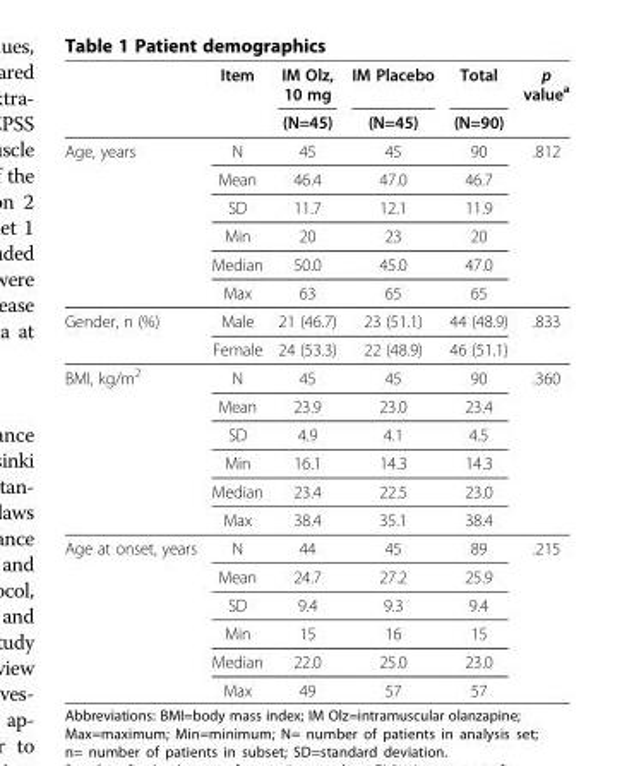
<table><thead><tr><td rowspan="2"></td><td rowspan="2">Item</td><td rowspan="2">IM Olz, 10 mg (N=45)</td><td rowspan="2">IM Placebo (N=45)</td><td rowspan="2">Total (N=90)</td><td rowspan="2">p value<sup>a</sup></td></tr><tr></tr></thead><tbody><tr><td rowspan="6">Age, years</td><td>N</td><td>45</td><td>45</td><td>90</td><td rowspan="6">.812</td></tr><tr><td>Mean</td><td>46.4</td><td>47.0</td><td>46.7</td></tr><tr><td>SD</td><td>11.7</td><td>12.1</td><td>11.9</td></tr><tr><td>Min</td><td>20</td><td>23</td><td>20</td></tr><tr><td>Median</td><td>50.0</td><td>45.0</td><td>47.0</td></tr><tr><td>Max</td><td>63</td><td>65</td><td>65</td></tr><tr><td rowspan="2">Gender, n (%)</td><td>Male</td><td>21 (46.7)</td><td>23 (51.1)</td><td>44 (48.9)</td><td rowspan="2">.833</td></tr><tr><td>Female</td><td>24 (53.3)</td><td>22 (48.9)</td><td>46 (51.1)</td></tr><tr><td rowspan="6">BMI, kg/m<sup>2</sup></td><td>N</td><td>45</td><td>45</td><td>90</td><td rowspan="6">.360</td></tr><tr><td>Mean</td><td>23.9</td><td>23.0</td><td>23.4</td></tr><tr><td>SD</td><td>4.9</td><td>4.1</td><td>4.5</td></tr><tr><td>Min</td><td>16.1</td><td>14.3</td><td>14.3</td></tr><tr><td>Median</td><td>23.4</td><td>22.5</td><td>23.0</td></tr><tr><td>Max</td><td>38.4</td><td>35.1</td><td>38.4</td></tr><tr><td rowspan="6">Age at onset, years</td><td>N</td><td>44</td><td>45</td><td>89</td><td rowspan="6">.215</td></tr><tr><td>Mean</td><td>24.7</td><td>27.2</td><td>25.9</td></tr><tr><td>SD</td><td>9.4</td><td>9.3</td><td>9.4</td></tr><tr><td>Min</td><td>15</td><td>16</td><td>15</td></tr><tr><td>Median</td><td>22.0</td><td>25.0</td><td>23.0</td></tr><tr><td>Max</td><td>49</td><td>57</td><td>57</td></tr></tbody></table>